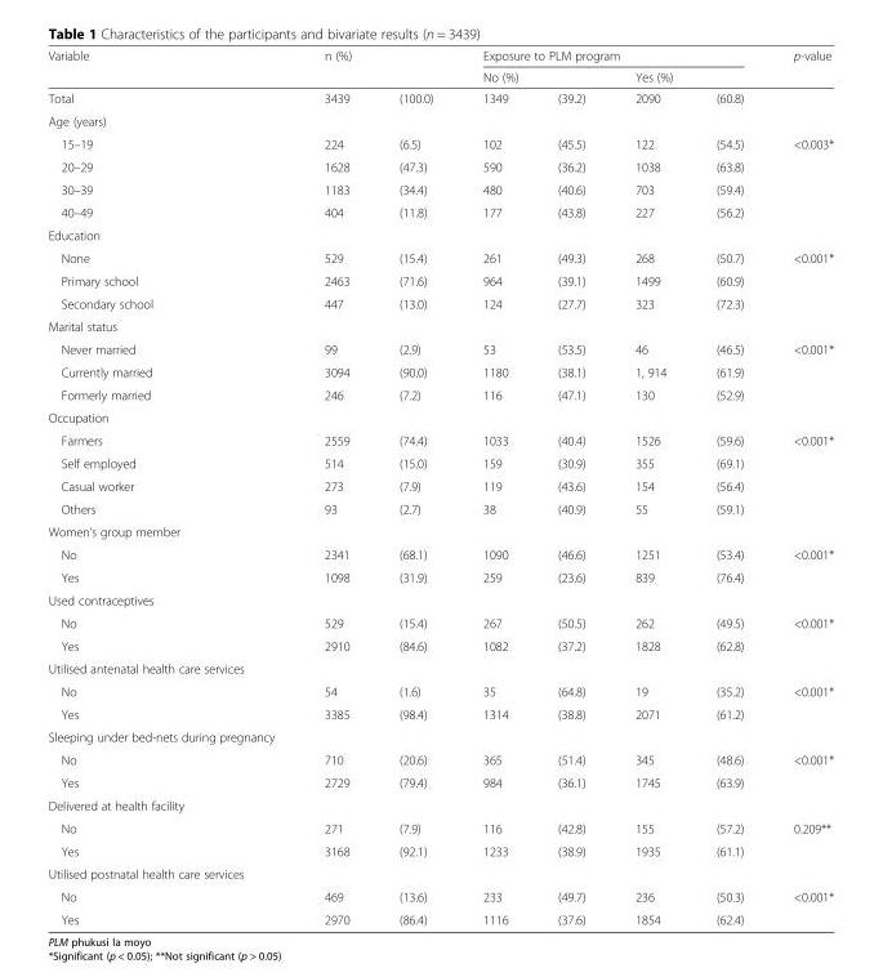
<table><thead><tr><td rowspan="3">Variable Total</td><td rowspan="2" colspan="2">n (%)</td><td colspan="4">Exposure to PLM program</td><td rowspan="3">p-value</td></tr><tr><td colspan="2">No (%)</td><td colspan="2">Yes (%)</td></tr><tr><td>3439</td><td>(100.0)</td><td>1349</td><td>(39.2)</td><td>2090</td><td>(60.8)</td></tr></thead><tbody><tr><td colspan="8">Age (years)</td></tr><tr><td>15–19</td><td>224</td><td>(6.5)</td><td>102</td><td>(45.5)</td><td>122</td><td>(54.5)</td><td>&lt;0.003*</td></tr><tr><td>20–29</td><td>1628</td><td>(47.3)</td><td>590</td><td>(36.2)</td><td>1038</td><td>(63.8)</td><td></td></tr><tr><td>30–39</td><td>1183</td><td>(34.4)</td><td>480</td><td>(40.6)</td><td>703</td><td>(59.4)</td><td></td></tr><tr><td>40–49</td><td>404</td><td>(11.8)</td><td>177</td><td>(43.8)</td><td>227</td><td>(56.2)</td><td></td></tr><tr><td colspan="8">Education</td></tr><tr><td>None</td><td>529</td><td>(15.4)</td><td>261</td><td>(49.3)</td><td>268</td><td>(50.7)</td><td>&lt;0.001*</td></tr><tr><td>Primary school</td><td>2463</td><td>(71.6)</td><td>964</td><td>(39.1)</td><td>1499</td><td>(60.9)</td><td></td></tr><tr><td>Secondary school</td><td>447</td><td>(13.0)</td><td>124</td><td>(27.7)</td><td>323</td><td>(72.3)</td><td></td></tr><tr><td colspan="8">Marital status</td></tr><tr><td>Never married</td><td>99</td><td>(2.9)</td><td>53</td><td>(53.5)</td><td>46</td><td>(46.5)</td><td>&lt;0.001*</td></tr><tr><td>Currently married</td><td>3094</td><td>(90.0)</td><td>1180</td><td>(38.1)</td><td>1, 914</td><td>(61.9)</td><td></td></tr><tr><td>Formerly married</td><td>246</td><td>(7.2)</td><td>116</td><td>(47.1)</td><td>130</td><td>(52.9)</td><td></td></tr><tr><td colspan="8">Occupation</td></tr><tr><td>Farmers</td><td>2559</td><td>(74.4)</td><td>1033</td><td>(40.4)</td><td>1526</td><td>(59.6)</td><td>&lt;0.001*</td></tr><tr><td>Self employed</td><td>514</td><td>(15.0)</td><td>159</td><td>(30.9)</td><td>355</td><td>(69.1)</td><td></td></tr><tr><td>Casual worker</td><td>273</td><td>(7.9)</td><td>119</td><td>(43.6)</td><td>154</td><td>(56.4)</td><td></td></tr><tr><td>Others</td><td>93</td><td>(2.7)</td><td>38</td><td>(40.9)</td><td>55</td><td>(59.1)</td><td></td></tr><tr><td colspan="8">Women’s group member</td></tr><tr><td>No</td><td>2341</td><td>(68.1)</td><td>1090</td><td>(46.6)</td><td>1251</td><td>(53.4)</td><td>&lt;0.001*</td></tr><tr><td>Yes</td><td>1098</td><td>(31.9)</td><td>259</td><td>(23.6)</td><td>839</td><td>(76.4)</td><td></td></tr><tr><td colspan="8">Used contraceptives</td></tr><tr><td>No</td><td>529</td><td>(15.4)</td><td>267</td><td>(50.5)</td><td>262</td><td>(49.5)</td><td>&lt;0.001*</td></tr><tr><td>Yes</td><td>2910</td><td>(84.6)</td><td>1082</td><td>(37.2)</td><td>1828</td><td>(62.8)</td><td></td></tr><tr><td colspan="8">Utilised antenatal health care services</td></tr><tr><td>No</td><td>54</td><td>(1.6)</td><td>35</td><td>(64.8)</td><td>19</td><td>(35.2)</td><td>&lt;0.001*</td></tr><tr><td>Yes</td><td>3385</td><td>(98.4)</td><td>1314</td><td>(38.8)</td><td>2071</td><td>(61.2)</td><td></td></tr><tr><td colspan="8">Sleeping under bed-nets during pregnancy</td></tr><tr><td>No</td><td>710</td><td>(20.6)</td><td>365</td><td>(51.4)</td><td>345</td><td>(48.6)</td><td>&lt;0.001*</td></tr><tr><td>Yes</td><td>2729</td><td>(79.4)</td><td>984</td><td>(36.1)</td><td>1745</td><td>(63.9)</td><td></td></tr><tr><td colspan="8">Delivered at health facility</td></tr><tr><td>No</td><td>271</td><td>(7.9)</td><td>116</td><td>(42.8)</td><td>155</td><td>(57.2)</td><td>0.209**</td></tr><tr><td>Yes</td><td>3168</td><td>(92.1)</td><td>1233</td><td>(38.9)</td><td>1935</td><td>(61.1)</td><td></td></tr><tr><td colspan="8">Utilised postnatal health care services</td></tr><tr><td>No</td><td>469</td><td>(13.6)</td><td>233</td><td>(49.7)</td><td>236</td><td>(50.3)</td><td>&lt;0.001*</td></tr><tr><td>Yes</td><td>2970</td><td>(86.4)</td><td>1116</td><td>(37.6)</td><td>1854</td><td>(62.4)</td><td></td></tr></tbody></table>